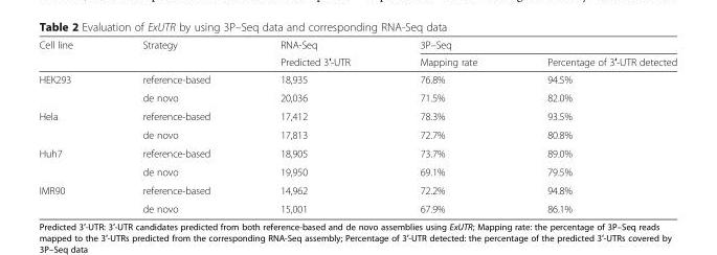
<table><thead><tr><td rowspan="2">Cell line</td><td rowspan="2">Strategy</td><td rowspan="2">RNA-Seq Predicted 3′-UTR</td><td colspan="2">3P–Seq</td></tr><tr><td>Mapping rate</td><td>Percentage of 3′-UTR detected</td></tr></thead><tbody><tr><td rowspan="2">HEK293</td><td>reference-based</td><td>18,935</td><td>76.8%</td><td>94.5%</td></tr><tr><td>de novo</td><td>20,036</td><td>71.5%</td><td>82.0%</td></tr><tr><td rowspan="2">Hela</td><td>reference-based</td><td>17,412</td><td>78.3%</td><td>93.5%</td></tr><tr><td>de novo</td><td>17,813</td><td>72.7%</td><td>80.8%</td></tr><tr><td rowspan="2">Huh7</td><td>reference-based</td><td>18,905</td><td>73.7%</td><td>89.0%</td></tr><tr><td>de novo</td><td>19,950</td><td>69.1%</td><td>79.5%</td></tr><tr><td rowspan="2">IMR90</td><td>reference-based</td><td>14,962</td><td>72.2%</td><td>94.8%</td></tr><tr><td>de novo</td><td>15,001</td><td>67.9%</td><td>86.1%</td></tr></tbody></table>